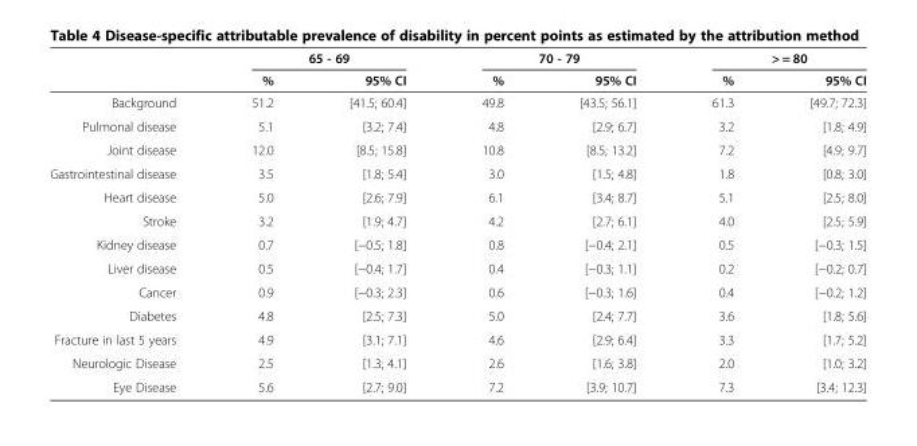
<table><thead><tr><td rowspan="2"></td><td colspan="2">65 - 69</td><td colspan="2">70 - 79</td><td colspan="2">&gt; = 80</td></tr><tr><td>%</td><td>95% CI</td><td>%</td><td>95% CI</td><td>%</td><td>95% CI</td></tr></thead><tbody><tr><td>Background</td><td>51.2</td><td>[41.5; 60.4]</td><td>49.8</td><td>[43.5; 56.1]</td><td>61.3</td><td>[49.7; 72.3]</td></tr><tr><td>Pulmonal disease</td><td>5.1</td><td>[3.2; 7.4]</td><td>4.8</td><td>[2.9; 6.7]</td><td>3.2</td><td>[1.8; 4.9]</td></tr><tr><td>Joint disease</td><td>12.0</td><td>[8.5; 15.8]</td><td>10.8</td><td>[8.5; 13.2]</td><td>7.2</td><td>[4.9; 9.7]</td></tr><tr><td>Gastrointestinal disease</td><td>3.5</td><td>[1.8; 5.4]</td><td>3.0</td><td>[1.5; 4.8]</td><td>1.8</td><td>[0.8; 3.0]</td></tr><tr><td>Heart disease</td><td>5.0</td><td>[2.6; 7.9]</td><td>6.1</td><td>[3.4; 8.7]</td><td>5.1</td><td>[2.5; 8.0]</td></tr><tr><td>Stroke</td><td>3.2</td><td>[1.9; 4.7]</td><td>4.2</td><td>[2.7; 6.1]</td><td>4.0</td><td>[2.5; 5.9]</td></tr><tr><td>Kidney disease</td><td>0.7</td><td>[−0.5; 1.8]</td><td>0.8</td><td>[−0.4; 2.1]</td><td>0.5</td><td>[−0.3; 1.5]</td></tr><tr><td>Liver disease</td><td>0.5</td><td>[−0.4; 1.7]</td><td>0.4</td><td>[−0.3; 1.1]</td><td>0.2</td><td>[−0.2; 0.7]</td></tr><tr><td>Cancer</td><td>0.9</td><td>[−0.3; 2.3]</td><td>0.6</td><td>[−0.3; 1.6]</td><td>0.4</td><td>[−0.2; 1.2]</td></tr><tr><td>Diabetes</td><td>4.8</td><td>[2.5; 7.3]</td><td>5.0</td><td>[2.4; 7.7]</td><td>3.6</td><td>[1.8; 5.6]</td></tr><tr><td>Fracture in last 5 years</td><td>4.9</td><td>[3.1; 7.1]</td><td>4.6</td><td>[2.9; 6.4]</td><td>3.3</td><td>[1.7; 5.2]</td></tr><tr><td>Neurologic Disease</td><td>2.5</td><td>[1.3; 4.1]</td><td>2.6</td><td>[1.6; 3.8]</td><td>2.0</td><td>[1.0; 3.2]</td></tr><tr><td>Eye Disease</td><td>5.6</td><td>[2.7; 9.0]</td><td>7.2</td><td>[3.9; 10.7]</td><td>7.3</td><td>[3.4; 12.3]</td></tr></tbody></table>